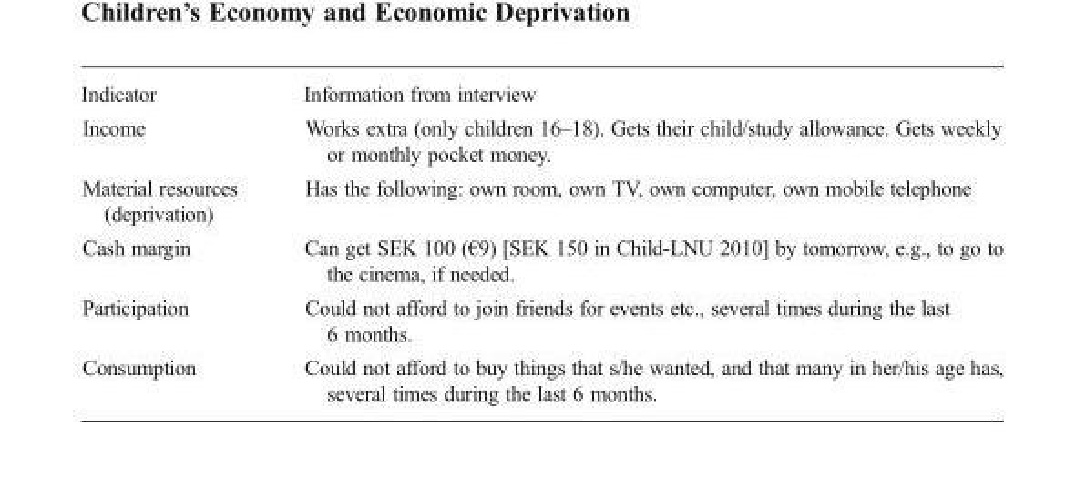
<table><thead><tr><td>Indicator</td><td>Information from interview</td></tr></thead><tbody><tr><td>Income</td><td>Works extra (only children 16–18). Gets their child/study allowance. Gets weekly or monthly pocket money.</td></tr><tr><td>Material resources (deprivation)</td><td>Has the following: own room, own TV, own computer, own mobile telephone</td></tr><tr><td>Cash margin</td><td>Can get SEK 100 (€9) [SEK 150 in Child-LNU 2010] by tomorrow, e.g., to go to the cinema, if needed.</td></tr><tr><td>Participation</td><td>Could not afford to join friends for events etc., several times during the last 6 months.</td></tr><tr><td>Consumption</td><td>Could not afford to buy things that s/he wanted, and that many in her/his age has, several times during the last 6 months.</td></tr></tbody></table>